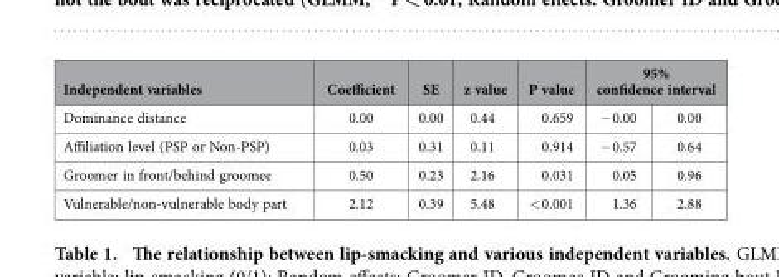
<table><thead><tr><td rowspan="2">Independent variables Dominance distance</td><td rowspan="2">Coefficient 0.00</td><td rowspan="2">SE 0.00</td><td rowspan="2">z value 0.44</td><td rowspan="2">P value 0.659</td><td colspan="2">95% confidence interval</td></tr><tr><td>− 0.00</td><td>0.00</td></tr></thead><tbody><tr><td>Affiliation level (PSP or Non-PSP)</td><td>0.03</td><td>0.31</td><td>0.11</td><td>0.914</td><td>− 0.57</td><td>0.64</td></tr><tr><td>Groomer in front/behind groomee</td><td>0.50</td><td>0.23</td><td>2.16</td><td>0.031</td><td>0.05</td><td>0.96</td></tr><tr><td>Vulnerable/non-vulnerable body part</td><td>2.12</td><td>0.39</td><td>5.48</td><td>&lt; 0.001</td><td>1.36</td><td>2.88</td></tr></tbody></table>